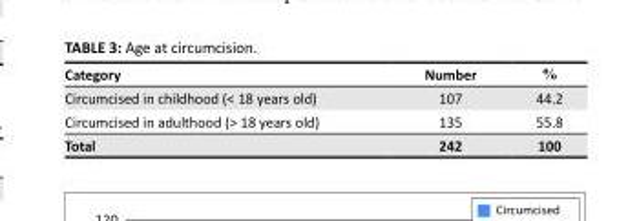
<table><thead><tr><td>Category</td><td>Number</td><td>%</td></tr></thead><tbody><tr><td>Circumcised in childhood (&lt; 18 years old)</td><td>107</td><td>44.2</td></tr><tr><td>Circumcised in adulthood (&gt; 18 years old)</td><td>135</td><td>55.8</td></tr><tr><td>Total</td><td>242</td><td>100</td></tr></tbody></table>